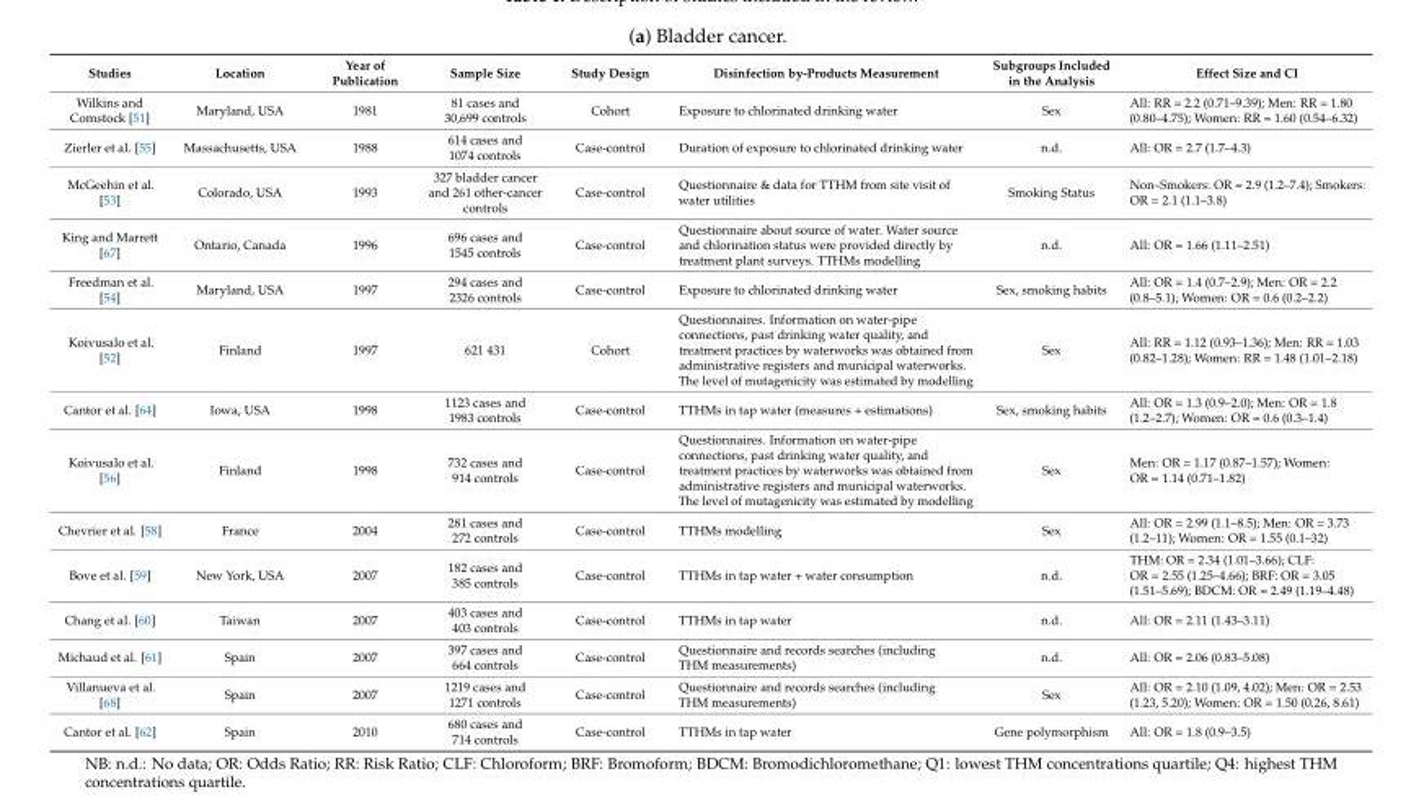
<table><thead><tr><td>Studies</td><td>Location</td><td>Year of Publication</td><td>Sample Size</td><td>Study Design</td><td>Disinfection by-Products Measurement</td><td>Subgroups Included in the Analysis</td><td>Effect Size and CI</td></tr></thead><tbody><tr><td>Wilkins and Comstock [51]</td><td>Maryland, USA</td><td>1981</td><td>81 cases and 30,699 controls</td><td>Cohort</td><td>Exposure to chlorinated drinking water</td><td>Sex</td><td>All: RR = 2.2 (0.71–9.39); Men: RR = 1.80 (0.80–4.75); Women: RR = 1.60 (0.54–6.32)</td></tr><tr><td>Zierler et al. [55]</td><td>Massachusetts, USA</td><td>1988</td><td>614 cases and 1074 controls</td><td>Case-control</td><td>Duration of exposure to chlorinated drinking water</td><td>n.d.</td><td>All: OR = 2.7 (1.7–4.3)</td></tr><tr><td>McGeehin et al. [53]</td><td>Colorado, USA</td><td>1993</td><td>327 bladder cancer and 261 other-cancer controls</td><td>Case-control</td><td>Questionnaire &amp; data for TTHM from site visit of water utilities</td><td>Smoking Status</td><td>Non–Smokers: OR = 2.9 (1.2–7.4); Smokers: OR = 2.1 (1.1–3.8)</td></tr><tr><td>King and Marrett [67]</td><td>Ontario, Canada</td><td>1996</td><td>696 cases and 1545 controls</td><td>Case-control</td><td>Questionnaire about source of water. Water source and chlorination status were provided directly by treatment plant surveys. TTHMs modelling</td><td>n.d.</td><td>All: OR = 1.66 (1.11–2.51)</td></tr><tr><td>Freedman et al. [54]</td><td>Maryland, USA</td><td>1997</td><td>294 cases and 2326 controls</td><td>Case-control</td><td>Exposure to chlorinated drinking water</td><td>Sex, smoking habits</td><td>All: OR = 1.4 (0.7–2.9); Men: OR = 2.2 (0.8–5.1); Women: OR = 0.6 (0.2–2.2)</td></tr><tr><td>Koivusalo et al. [52]</td><td>Finland</td><td>1997</td><td>621 431</td><td>Cohort</td><td>Questionnaires. Information on water-pipe connections, past drinking water quality, and treatment practices by waterworks was obtained from administrative registers and municipal waterworks. The level of mutagenicity was estimated by modelling</td><td>Sex</td><td>All: RR = 1.12 (0.93–1.36); Men: RR = 1.03 (0.82–1.28); Women: RR = 1.48 (1.01–2.18)</td></tr><tr><td>Cantor et al. [64]</td><td>Iowa, USA</td><td>1998</td><td>1123 cases and 1983 controls</td><td>Case-control</td><td>TTHMs in tap water (measures + estimations)</td><td>Sex, smoking habits</td><td>All: OR = 1.3 (0.9–2.0); Men: OR = 1.8 (1.2–2.7); Women: OR = 0.6 (0.3–1.4)</td></tr><tr><td>Koivusalo et al. [56]</td><td>Finland</td><td>1998</td><td>732 cases and 914 controls</td><td>Case-control</td><td>Questionnaires. Information on water-pipe connections, past drinking water quality, and treatment practices by waterworks was obtained from administrative registers and municipal waterworks. The level of mutagenicity was estimated by modelling</td><td>Sex</td><td>Men: OR = 1.17 (0.87–1.57); Women: OR = 1.14 (0.71–1.82)</td></tr><tr><td>Chevrier et al. [58]</td><td>France</td><td>2004</td><td>281 cases and 272 controls</td><td>Case-control</td><td>TTHMs modelling</td><td>Sex</td><td>All: OR = 2.99 (1.1–8.5); Men: OR = 3.73 (1.2–11); Women: OR = 1.55 (0.1–32)</td></tr><tr><td>Bove et al. [59]</td><td>New York, USA</td><td>2007</td><td>182 cases and 385 controls</td><td>Case-control</td><td>TTHMs in tap water + water consumption</td><td>n.d.</td><td>THM: OR = 2.34 (1.01–3.66); CLF: OR = 2.55 (1.25–4.66); BRF: OR = 3.05 (1.51–5.69); BDCM: OR = 2.49 (1.19–4.48)</td></tr><tr><td>Chang et al. [60]</td><td>Taiwan</td><td>2007</td><td>403 cases and 403 controls</td><td>Case-control</td><td>TTHMs in tap water</td><td>n.d.</td><td>All: OR = 2.11 (1.43–3.11)</td></tr><tr><td>Michaud et al. [61]</td><td>Spain</td><td>2007</td><td>397 cases and 664 controls</td><td>Case-control</td><td>Questionnaire and records searches (including THM measurements)</td><td>n.d.</td><td>All: OR = 2.06 (0.83–5.08)</td></tr><tr><td>Villanueva et al. [68]</td><td>Spain</td><td>2007</td><td>1219 cases and 1271 controls</td><td>Case-control</td><td>Questionnaire and records searches (including THM measurements)</td><td>Sex</td><td>All: OR = 2.10 (1.09, 4.02); Men: OR = 2.53 (1.23, 5.20); Women: OR = 1.50 (0.26, 8.61)</td></tr><tr><td>Cantor et al. [62]</td><td>Spain</td><td>2010</td><td>680 cases and 714 controls</td><td>Case-control</td><td>TTHMs in tap water</td><td>Gene polymorphism</td><td>All: OR = 1.8 (0.9–3.5)</td></tr></tbody></table>